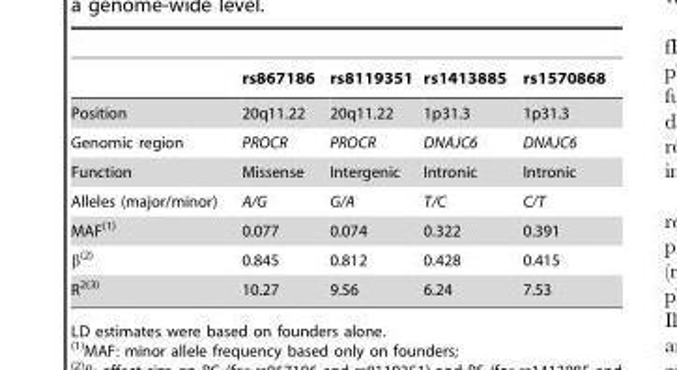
<table><thead><tr><td></td><td>rs867186</td><td>rs8119351</td><td>rs1413885</td><td>rs1570868</td></tr></thead><tbody><tr><td>Position</td><td>20q11.22</td><td>20q11.22</td><td>1p31.3</td><td>1p31.3</td></tr><tr><td>Genomic region</td><td>PROCR</td><td>PROCR</td><td>DNAJC6</td><td>DNAJC6</td></tr><tr><td>Function</td><td>Missense</td><td>Intergenic</td><td>Intronic</td><td>Intronic</td></tr><tr><td>Alleles (major/minor)</td><td>A/G</td><td>G/A</td><td>T/C</td><td>C/T</td></tr><tr><td>MAF(1)</td><td>0.077</td><td>0.074</td><td>0.322</td><td>0.391</td></tr><tr><td>β(2)</td><td>0.845</td><td>0.812</td><td>0.428</td><td>0.415</td></tr><tr><td>R<sup>2</sup>(3)</td><td>10.27</td><td>9.56</td><td>6.24</td><td>7.53</td></tr></tbody></table>